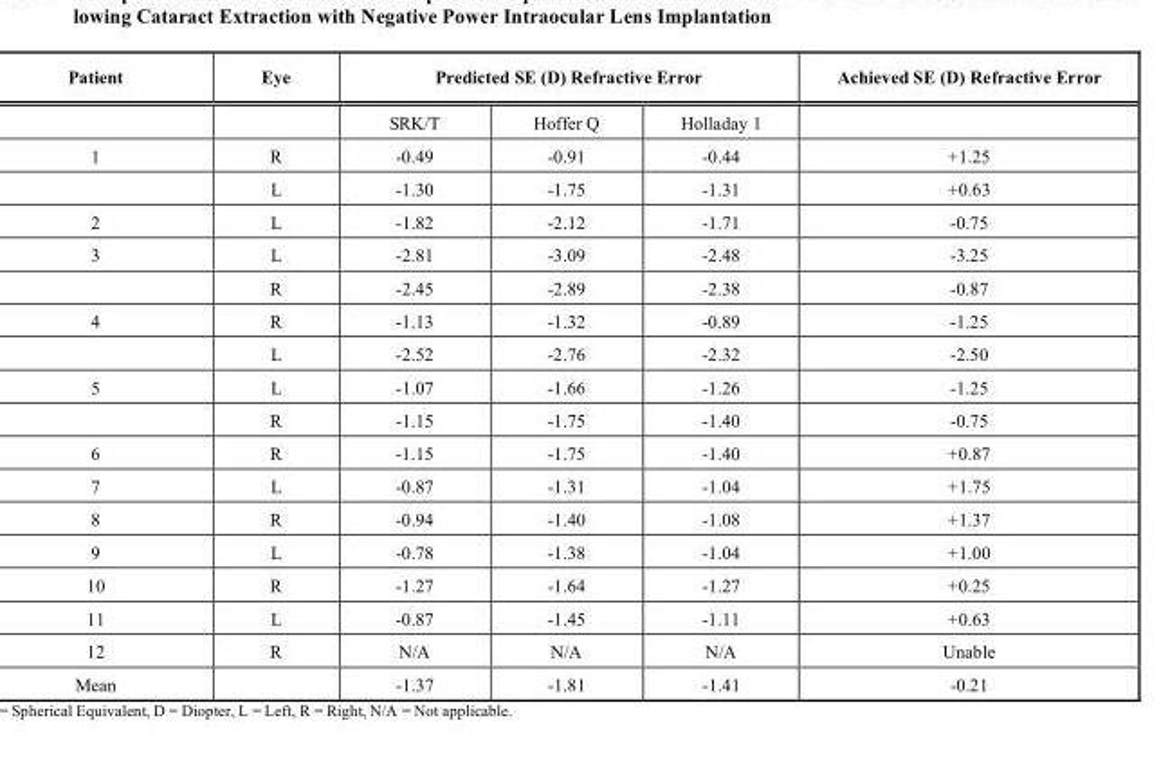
<table><thead><tr><td rowspan="2">Patient</td><td rowspan="2">Eye</td><td colspan="3">Predicted SE (D) Refractive Error</td><td rowspan="2">Achieved SE (D) Refractive Error</td></tr><tr><td>SRK/T</td><td>Hoffer Q</td><td>Holladay 1</td></tr></thead><tbody><tr><td rowspan="2">1</td><td>R</td><td>-0.49</td><td>-0.91</td><td>-0.44</td><td>+1.25</td></tr><tr><td>L</td><td>-1.30</td><td>-1.75</td><td>-1.31</td><td>+0.63</td></tr><tr><td>2</td><td>L</td><td>-1.82</td><td>-2.12</td><td>-1.71</td><td>-0.75</td></tr><tr><td rowspan="2">3</td><td>L</td><td>-2.81</td><td>-3.09</td><td>-2.48</td><td>-3.25</td></tr><tr><td>R</td><td>-2.45</td><td>-2.89</td><td>-2.38</td><td>-0.87</td></tr><tr><td rowspan="2">4</td><td>R</td><td>-1.13</td><td>-1.32</td><td>-0.89</td><td>-1.25</td></tr><tr><td>L</td><td>-2.52</td><td>-2.76</td><td>-2.32</td><td>-2.50</td></tr><tr><td rowspan="2">5</td><td>L</td><td>-1.07</td><td>-1.66</td><td>-1.26</td><td>-1.25</td></tr><tr><td>R</td><td>-1.15</td><td>-1.75</td><td>-1.40</td><td>-0.75</td></tr><tr><td>6</td><td>R</td><td>-1.15</td><td>-1.75</td><td>-1.40</td><td>+0.87</td></tr><tr><td>7</td><td>L</td><td>-0.87</td><td>-1.31</td><td>-1.04</td><td>+1.75</td></tr><tr><td>8</td><td>R</td><td>-0.94</td><td>-1.40</td><td>-1.08</td><td>+1.37</td></tr><tr><td>9</td><td>L</td><td>-0.78</td><td>-1.38</td><td>-1.04</td><td>+1.00</td></tr><tr><td>10</td><td>R</td><td>-1.27</td><td>-1.64</td><td>-1.27</td><td>+0.25</td></tr><tr><td>11</td><td>L</td><td>-0.87</td><td>-1.45</td><td>-1.11</td><td>+0.63</td></tr><tr><td>12</td><td>R</td><td>N/A</td><td>N/A</td><td>N/A</td><td>Unable</td></tr><tr><td>Mean</td><td></td><td>-1.37</td><td>-1.81</td><td>-1.41</td><td>-0.21</td></tr></tbody></table>